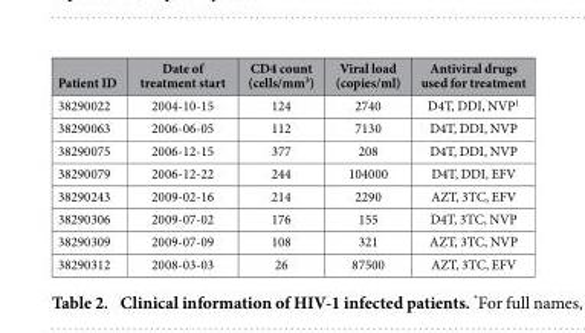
<table><thead><tr><td>Patient ID</td><td>Date of treatment start</td><td>CD4 count (cells/mm<sup>3</sup>)</td><td>Viral load (copies/ml)</td><td>Antiviral drugs used for treatment</td></tr></thead><tbody><tr><td>38290022</td><td>2004-10-15</td><td>124</td><td>2740</td><td>D4T, DDI, NVP<sup>1</sup></td></tr><tr><td>38290063</td><td>2006-06-05</td><td>112</td><td>7130</td><td>D4T, DDI, NVP</td></tr><tr><td>38290075</td><td>2006-12-15</td><td>377</td><td>208</td><td>D4T, DDI, NVP</td></tr><tr><td>38290079</td><td>2006-12-22</td><td>244</td><td>104000</td><td>D4T, DDI, EFV</td></tr><tr><td>38290243</td><td>2009-02-16</td><td>214</td><td>2290</td><td>AZT, 3TC, EFV</td></tr><tr><td>38290306</td><td>2009-07-02</td><td>176</td><td>155</td><td>D4T, 3TC, NVP</td></tr><tr><td>38290309</td><td>2009-07-09</td><td>108</td><td>321</td><td>AZT, 3TC, NVP</td></tr><tr><td>38290312</td><td>2008-03-03</td><td>26</td><td>87500</td><td>AZT, 3TC, EFV</td></tr></tbody></table>